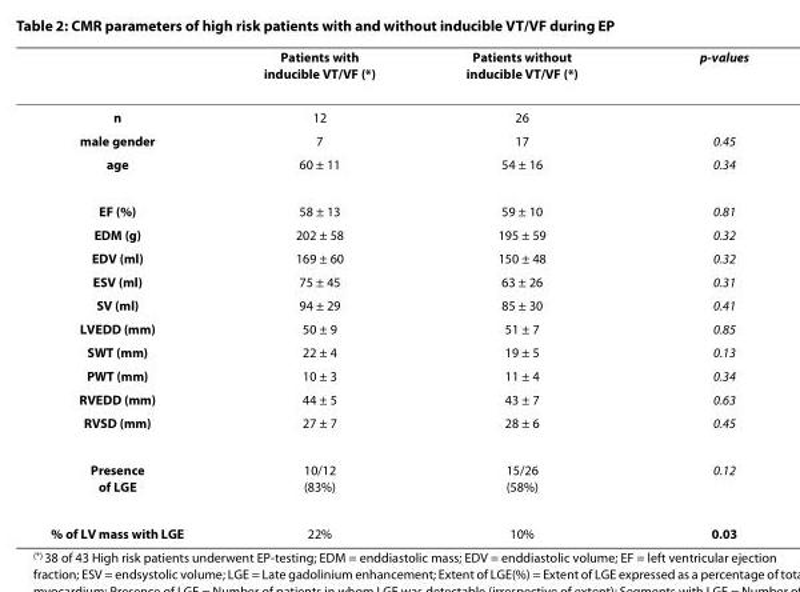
<table><thead><tr><td></td><td>Patients with inducible VT/VF (*)</td><td>Patients without inducible VT/VF (*)</td><td>p-values</td></tr></thead><tbody><tr><td>n</td><td>12</td><td>26</td><td></td></tr><tr><td>male gender</td><td>7</td><td>17</td><td>0.45</td></tr><tr><td>age</td><td>60 ± 11</td><td>54 ± 16</td><td>0.34</td></tr><tr><td>EF (%)</td><td>58 ± 13</td><td>59 ± 10</td><td>0.81</td></tr><tr><td>EDM (g)</td><td>202 ± 58</td><td>195 ± 59</td><td>0.32</td></tr><tr><td>EDV (ml)</td><td>169 ± 60</td><td>150 ± 48</td><td>0.32</td></tr><tr><td>ESV (ml)</td><td>75 ± 45</td><td>63 ± 26</td><td>0.31</td></tr><tr><td>SV (ml)</td><td>94 ± 29</td><td>85 ± 30</td><td>0.41</td></tr><tr><td>LVEDD (mm)</td><td>50 ± 9</td><td>51 ± 7</td><td>0.85</td></tr><tr><td>SWT (mm)</td><td>22 ± 4</td><td>19 ± 5</td><td>0.13</td></tr><tr><td>PWT (mm)</td><td>10 ± 3</td><td>11 ± 4</td><td>0.34</td></tr><tr><td>RVEDD (mm)</td><td>44 ± 5</td><td>43 ± 7</td><td>0.63</td></tr><tr><td>RVSD (mm)</td><td>27 ± 7</td><td>28 ± 6</td><td>0.45</td></tr><tr><td>Presence of LGE</td><td>10/12 (83%)</td><td>15/26 (58%)</td><td>0.12</td></tr><tr><td>% of LV mass with LGE</td><td>22%</td><td>10%</td><td>0.03</td></tr></tbody></table>